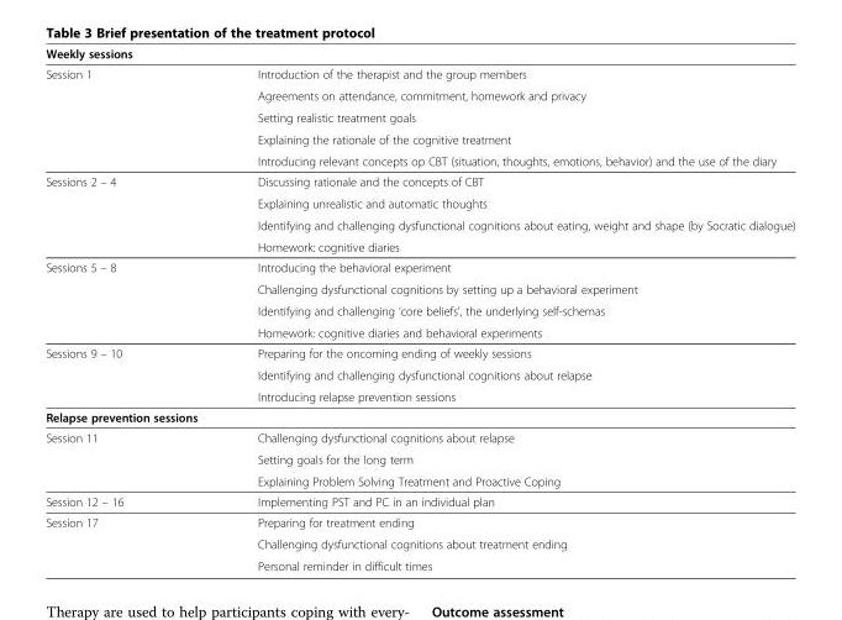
<table><thead><tr><td>Weekly sessions</td><td></td></tr></thead><tbody><tr><td rowspan="5">Session 1</td><td>Introduction of the therapist and the group members</td></tr><tr><td>Agreements on attendance, commitment, homework and privacy</td></tr><tr><td>Setting realistic treatment goals</td></tr><tr><td>Explaining the rationale of the cognitive treatment</td></tr><tr><td>Introducing relevant concepts op CBT (situation, thoughts, emotions, behavior) and the use of the diary</td></tr><tr><td rowspan="4">Sessions 2 – 4</td><td>Discussing rationale and the concepts of CBT</td></tr><tr><td>Explaining unrealistic and automatic thoughts</td></tr><tr><td>Identifying and challenging dysfunctional cognitions about eating, weight and shape (by Socratic dialogue)</td></tr><tr><td>Homework: cognitive diaries</td></tr><tr><td rowspan="4">Sessions 5 – 8</td><td>Introducing the behavioral experiment</td></tr><tr><td>Challenging dysfunctional cognitions by setting up a behavioral experiment</td></tr><tr><td>Identifying and challenging ‘core beliefs’, the underlying self-schemas</td></tr><tr><td>Homework: cognitive diaries and behavioral experiments</td></tr><tr><td rowspan="3">Sessions 9 – 10</td><td>Preparing for the oncoming ending of weekly sessions</td></tr><tr><td>Identifying and challenging dysfunctional cognitions about relapse</td></tr><tr><td>Introducing relapse prevention sessions</td></tr><tr><td colspan="2">Relapse prevention sessions</td></tr><tr><td rowspan="3">Session 11</td><td>Challenging dysfunctional cognitions about relapse</td></tr><tr><td>Setting goals for the long term</td></tr><tr><td>Explaining Problem Solving Treatment and Proactive Coping</td></tr><tr><td>Session 12 – 16</td><td>Implementing PST and PC in an individual plan</td></tr><tr><td rowspan="3">Session 17</td><td>Preparing for treatment ending</td></tr><tr><td>Challenging dysfunctional cognitions about treatment ending</td></tr><tr><td>Personal reminder in difficult times</td></tr></tbody></table>